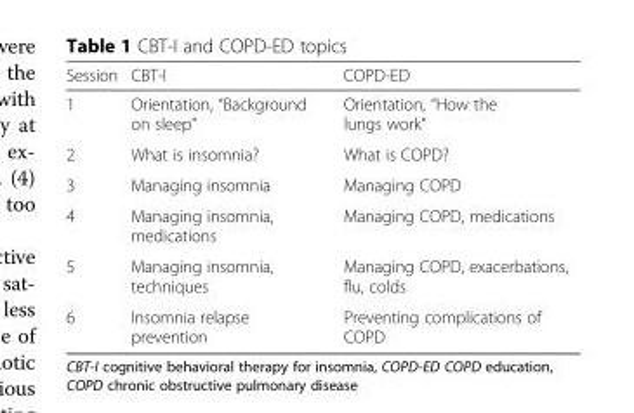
<table><thead><tr><td>Session</td><td>CBT-I</td><td>COPD-ED</td></tr></thead><tbody><tr><td>1</td><td>Orientation, “Background on sleep”</td><td>Orientation, “How the lungs work”</td></tr><tr><td>2</td><td>What is insomnia?</td><td>What is COPD?</td></tr><tr><td>3</td><td>Managing insomnia</td><td>Managing COPD</td></tr><tr><td>4</td><td>Managing insomnia, medications</td><td>Managing COPD, medications</td></tr><tr><td>5</td><td>Managing insomnia, techniques</td><td>Managing COPD, exacerbations, flu, colds</td></tr><tr><td>6</td><td>Insomnia relapse prevention</td><td>Preventing complications of COPD</td></tr></tbody></table>